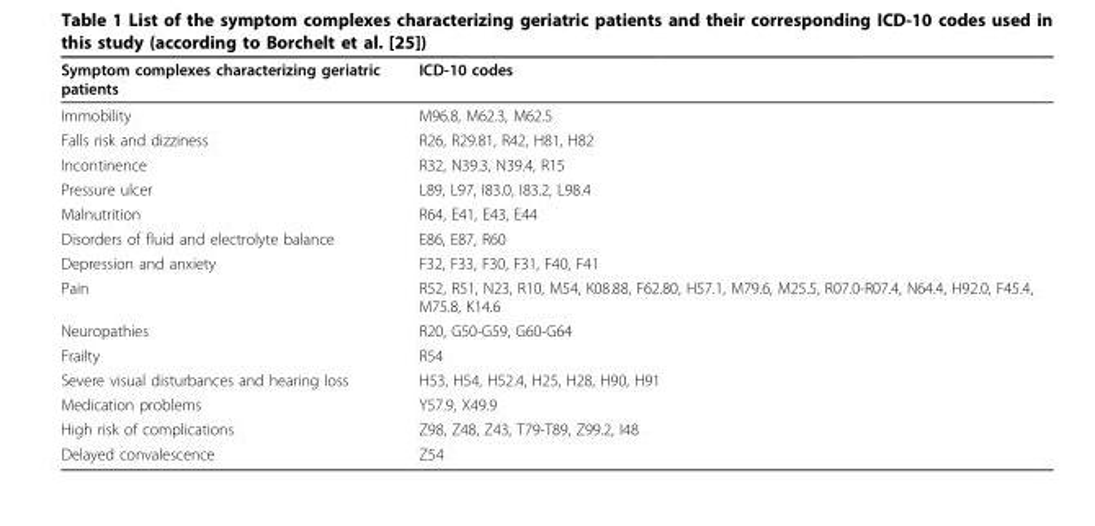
<table><thead><tr><td>Symptom complexes characterizing geriatric patients</td><td>ICD-10 codes</td></tr></thead><tbody><tr><td>Immobility</td><td>M96.8, M62.3, M62.5</td></tr><tr><td>Falls risk and dizziness</td><td>R26, R29.81, R42, H81, H82</td></tr><tr><td>Incontinence</td><td>R32, N39.3, N39.4, R15</td></tr><tr><td>Pressure ulcer</td><td>L89, L97, I83.0, I83.2, L98.4</td></tr><tr><td>Malnutrition</td><td>R64, E41, E43, E44</td></tr><tr><td>Disorders of fluid and electrolyte balance</td><td>E86, E87, R60</td></tr><tr><td>Depression and anxiety</td><td>F32, F33, F30, F31, F40, F41</td></tr><tr><td>Pain</td><td>R52, R51, N23, R10, M54, K08.88, F62.80, H57.1, M79.6, M25.5, R07.0-R07.4, N64.4, H92.0, F45.4, M75.8, K14.6</td></tr><tr><td>Neuropathies</td><td>R20, G50-G59, G60-G64</td></tr><tr><td>Frailty</td><td>R54</td></tr><tr><td>Severe visual disturbances and hearing loss</td><td>H53, H54, H52.4, H25, H28, H90, H91</td></tr><tr><td>Medication problems</td><td>Y57.9, X49.9</td></tr><tr><td>High risk of complications</td><td>Z98, Z48, Z43, T79-T89, Z99.2, I48</td></tr><tr><td>Delayed convalescence</td><td>Z54</td></tr></tbody></table>